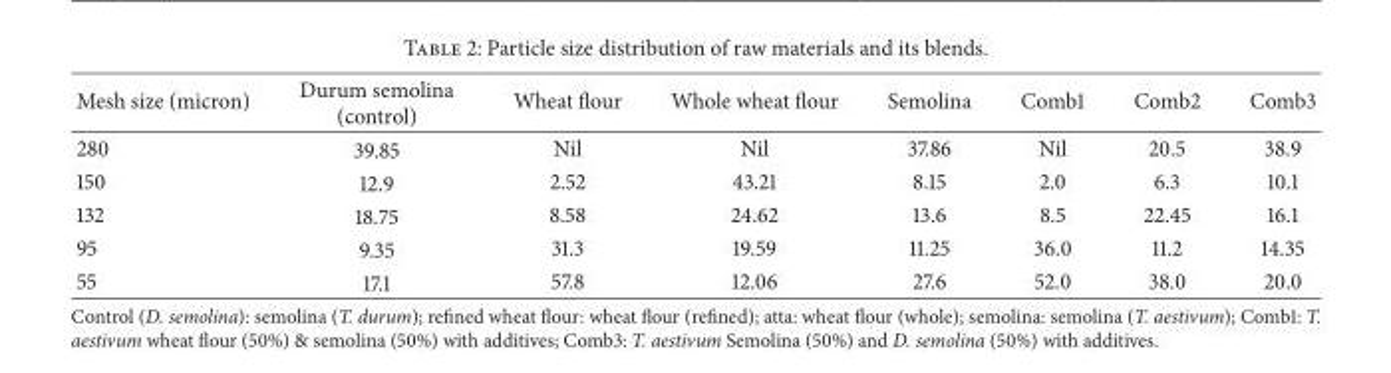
<table><thead><tr><td>Mesh size (micron)</td><td>Durum semolina (control)</td><td>Wheat flour</td><td>Whole wheat flour</td><td>Semolina</td><td>Comb1</td><td>Comb2</td><td>Comb3</td></tr></thead><tbody><tr><td>280</td><td>39.85</td><td>Nil</td><td>Nil</td><td>37.86</td><td>Nil</td><td>20.5</td><td>38.9</td></tr><tr><td>150</td><td>12.9</td><td>2.52</td><td>43.21</td><td>8.15</td><td>2.0</td><td>6.3</td><td>10.1</td></tr><tr><td>132</td><td>18.75</td><td>8.58</td><td>24.62</td><td>13.6</td><td>8.5</td><td>22.45</td><td>16.1</td></tr><tr><td>95</td><td>9.35</td><td>31.3</td><td>19.59</td><td>11.25</td><td>36.0</td><td>11.2</td><td>14.35</td></tr><tr><td>55</td><td>17.1</td><td>57.8</td><td>12.06</td><td>27.6</td><td>52.0</td><td>38.0</td><td>20.0</td></tr></tbody></table>